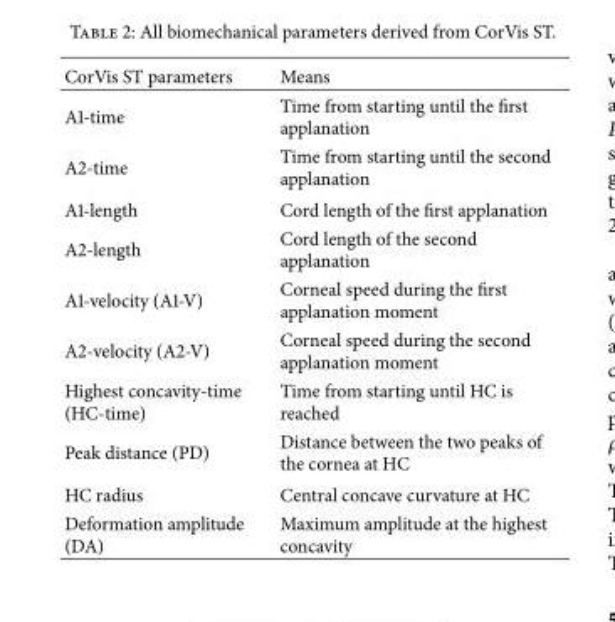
<table><thead><tr><td>CorVis ST parameters</td><td>Means</td></tr></thead><tbody><tr><td>A1-time</td><td>Time from starting until the first applanation</td></tr><tr><td>A2-time</td><td>Time from starting until the second applanation</td></tr><tr><td>A1-length</td><td>Cord length of the first applanation</td></tr><tr><td>A2-length</td><td>Cord length of the second applanation</td></tr><tr><td>A1-velocity (A1-V)</td><td>Corneal speed during the first applanation moment</td></tr><tr><td>A2-velocity (A2-V)</td><td>Corneal speed during the second applanation moment</td></tr><tr><td>Highest concavity-time (HC-time)</td><td>Time from starting until HC is reached</td></tr><tr><td>Peak distance (PD)</td><td>Distance between the two peaks of the cornea at HC</td></tr><tr><td>HC radius</td><td>Central concave curvature at HC</td></tr><tr><td>Deformation amplitude (DA)</td><td>Maximum amplitude at the highest concavity</td></tr></tbody></table>